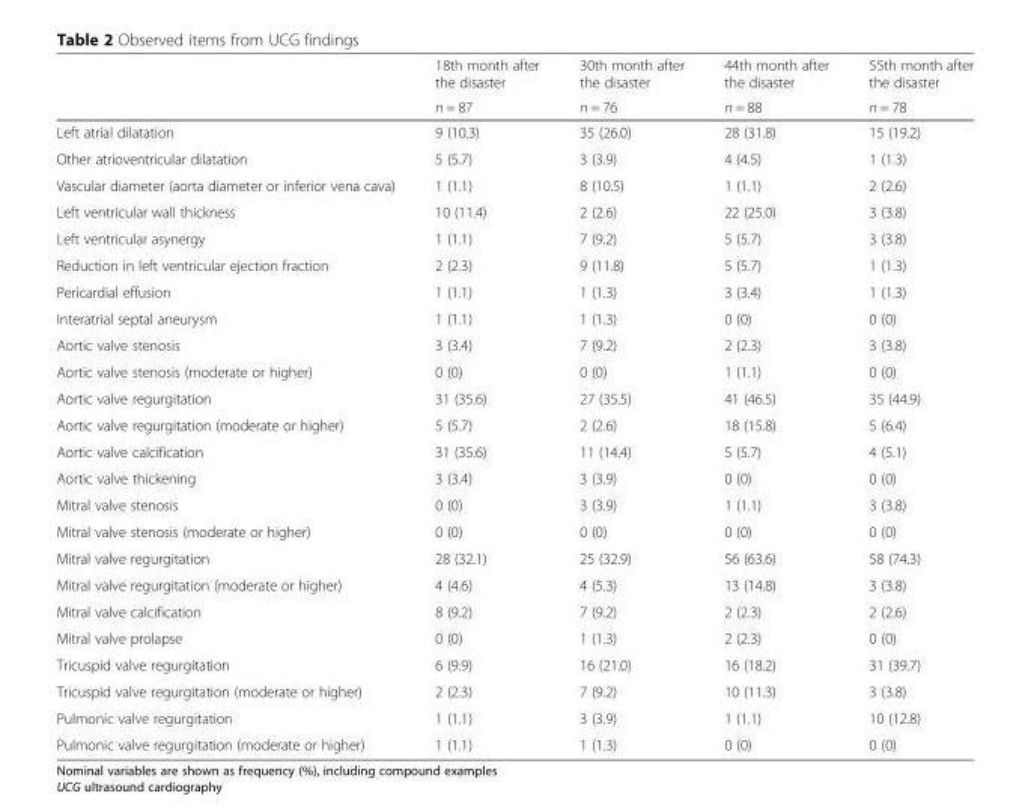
<table><thead><tr><td rowspan="2"></td><td rowspan="2">18th month after the disaster n = 87</td><td rowspan="2">30th month after the disaster n = 76</td><td rowspan="2">44th month after the disaster n = 88</td><td rowspan="2">55th month after the disaster n = 78</td></tr><tr></tr></thead><tbody><tr><td>Left atrial dilatation</td><td>9 (10.3)</td><td>35 (26.0)</td><td>28 (31.8)</td><td>15 (19.2)</td></tr><tr><td>Other atrioventricular dilatation</td><td>5 (5.7)</td><td>3 (3.9)</td><td>4 (4.5)</td><td>1 (1.3)</td></tr><tr><td>Vascular diameter (aorta diameter or inferior vena cava)</td><td>1 (1.1)</td><td>8 (10.5)</td><td>1 (1.1)</td><td>2 (2.6)</td></tr><tr><td>Left ventricular wall thickness</td><td>10 (11.4)</td><td>2 (2.6)</td><td>22 (25.0)</td><td>3 (3.8)</td></tr><tr><td>Left ventricular asynergy</td><td>1 (1.1)</td><td>7 (9.2)</td><td>5 (5.7)</td><td>3 (3.8)</td></tr><tr><td>Reduction in left ventricular ejection fraction</td><td>2 (2.3)</td><td>9 (11.8)</td><td>5 (5.7)</td><td>1 (1.3)</td></tr><tr><td>Pericardial effusion</td><td>1 (1.1)</td><td>1 (1.3)</td><td>3 (3.4)</td><td>1 (1.3)</td></tr><tr><td>Interatrial septal aneurysm</td><td>1 (1.1)</td><td>1 (1.3)</td><td>0 (0)</td><td>0 (0)</td></tr><tr><td>Aortic valve stenosis</td><td>3 (3.4)</td><td>7 (9.2)</td><td>2 (2.3)</td><td>3 (3.8)</td></tr><tr><td>Aortic valve stenosis (moderate or higher)</td><td>0 (0)</td><td>0 (0)</td><td>1 (1.1)</td><td>0 (0)</td></tr><tr><td>Aortic valve regurgitation</td><td>31 (35.6)</td><td>27 (35.5)</td><td>41 (46.5)</td><td>35 (44.9)</td></tr><tr><td>Aortic valve regurgitation (moderate or higher)</td><td>5 (5.7)</td><td>2 (2.6)</td><td>18 (15.8)</td><td>5 (6.4)</td></tr><tr><td>Aortic valve calcification</td><td>31 (35.6)</td><td>11 (14.4)</td><td>5 (5.7)</td><td>4 (5.1)</td></tr><tr><td>Aortic valve thickening</td><td>3 (3.4)</td><td>3 (3.9)</td><td>0 (0)</td><td>0 (0)</td></tr><tr><td>Mitral valve stenosis</td><td>0 (0)</td><td>3 (3.9)</td><td>1 (1.1)</td><td>3 (3.8)</td></tr><tr><td>Mitral valve stenosis (moderate or higher)</td><td>0 (0)</td><td>0 (0)</td><td>0 (0)</td><td>0 (0)</td></tr><tr><td>Mitral valve regurgitation</td><td>28 (32.1)</td><td>25 (32.9)</td><td>56 (63.6)</td><td>58 (74.3)</td></tr><tr><td>Mitral valve regurgitation (moderate or higher)</td><td>4 (4.6)</td><td>4 (5.3)</td><td>13 (14.8)</td><td>3 (3.8)</td></tr><tr><td>Mitral valve calcification</td><td>8 (9.2)</td><td>7 (9.2)</td><td>2 (2.3)</td><td>2 (2.6)</td></tr><tr><td>Mitral valve prolapse</td><td>0 (0)</td><td>1 (1.3)</td><td>2 (2.3)</td><td>0 (0)</td></tr><tr><td>Tricuspid valve regurgitation</td><td>6 (9.9)</td><td>16 (21.0)</td><td>16 (18.2)</td><td>31 (39.7)</td></tr><tr><td>Tricuspid valve regurgitation (moderate or higher)</td><td>2 (2.3)</td><td>7 (9.2)</td><td>10 (11.3)</td><td>3 (3.8)</td></tr><tr><td>Pulmonic valve regurgitation</td><td>1 (1.1)</td><td>3 (3.9)</td><td>1 (1.1)</td><td>10 (12.8)</td></tr><tr><td>Pulmonic valve regurgitation (moderate or higher)</td><td>1 (1.1)</td><td>1 (1.3)</td><td>0 (0)</td><td>0 (0)</td></tr></tbody></table>